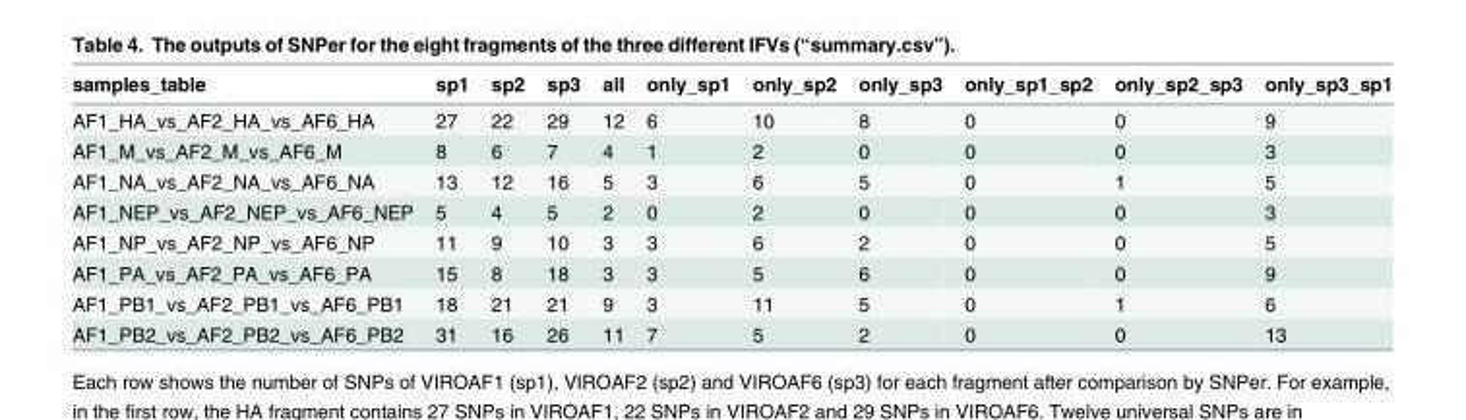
<table><thead><tr><td>samples_table</td><td>sp1</td><td>sp2</td><td>sp3</td><td>all</td><td>only_sp1</td><td>only_sp2</td><td>only_sp3</td><td>only_sp1_sp2</td><td>only_sp2_sp3</td><td>only_sp3_sp1</td></tr></thead><tbody><tr><td>AF1_HA_vs_AF2_HA_vs_AF6_HA</td><td>27</td><td>22</td><td>29</td><td>12</td><td>6</td><td>10</td><td>8</td><td>0</td><td>0</td><td>9</td></tr><tr><td>AF1_M_vs_AF2_M_vs_AF6_M</td><td>8</td><td>6</td><td>7</td><td>4</td><td>1</td><td>2</td><td>0</td><td>0</td><td>0</td><td>3</td></tr><tr><td>AF1_NA_vs_AF2_NA_vs_AF6_NA</td><td>13</td><td>12</td><td>16</td><td>5</td><td>3</td><td>6</td><td>5</td><td>0</td><td>1</td><td>5</td></tr><tr><td>AF1_NEP_vs_AF2_NEP_vs_AF6_NEP</td><td>5</td><td>4</td><td>5</td><td>2</td><td>0</td><td>2</td><td>0</td><td>0</td><td>0</td><td>3</td></tr><tr><td>AF1_NP_vs_AF2_NP_vs_AF6_NP</td><td>11</td><td>9</td><td>10</td><td>3</td><td>3</td><td>6</td><td>2</td><td>0</td><td>0</td><td>5</td></tr><tr><td>AF1_PA_vs_AF2_PA_vs_AF6_PA</td><td>15</td><td>8</td><td>18</td><td>3</td><td>3</td><td>5</td><td>6</td><td>0</td><td>0</td><td>9</td></tr><tr><td>AF1_PB1_vs_AF2_PB1_vs_AF6_PB1</td><td>18</td><td>21</td><td>21</td><td>9</td><td>3</td><td>11</td><td>5</td><td>0</td><td>1</td><td>6</td></tr><tr><td>AF1_PB2_vs_AF2_PB2_vs_AF6_PB2</td><td>31</td><td>16</td><td>26</td><td>11</td><td>7</td><td>5</td><td>2</td><td>0</td><td>0</td><td>13</td></tr></tbody></table>